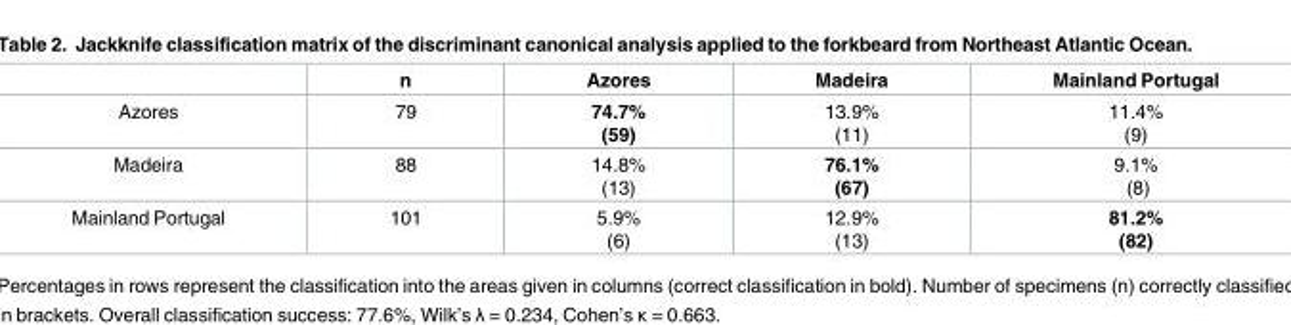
<table><thead><tr><td></td><td>n</td><td>Azores</td><td>Madeira</td><td>Mainland Portugal</td></tr></thead><tbody><tr><td>Azores</td><td>79</td><td>74.7% (59)</td><td>13.9% (11)</td><td>11.4% (9)</td></tr><tr><td>Madeira</td><td>88</td><td>14.8% (13)</td><td>76.1% (67)</td><td>9.1% (8)</td></tr><tr><td>Mainland Portugal</td><td>101</td><td>5.9% (6)</td><td>12.9% (13)</td><td>81.2% (82)</td></tr></tbody></table>